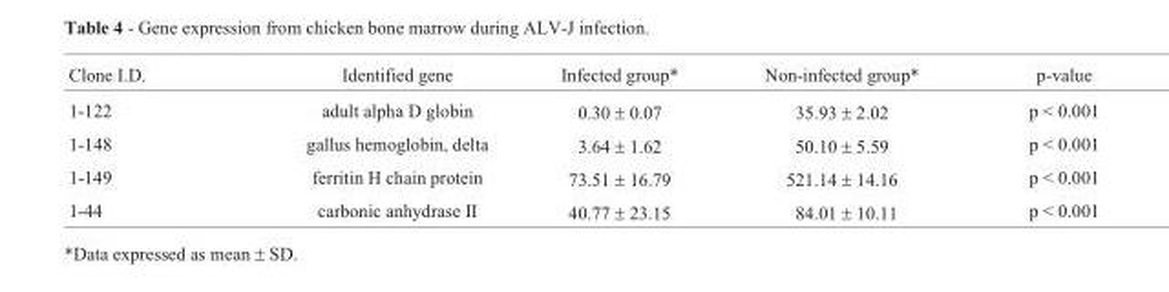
<table><thead><tr><td>Clone I.D.</td><td>Identified gene</td><td>Infected group*</td><td>Non-infected group*</td><td>p-value</td></tr></thead><tbody><tr><td>1-122</td><td>adult alpha D globin</td><td>0.30 ± 0.07</td><td>35.93 ± 2.02</td><td>p &lt; 0.001</td></tr><tr><td>1-148</td><td>gallus hemoglobin, delta</td><td>3.64 ± 1.62</td><td>50.10 ± 5.59</td><td>p &lt; 0.001</td></tr><tr><td>1-149</td><td>ferritin H chain protein</td><td>73.51 ± 16.79</td><td>521.14 ± 14.16</td><td>p &lt; 0.001</td></tr><tr><td>1-44</td><td>carbonic anhydrase II</td><td>40.77 ± 23.15</td><td>84.01 ± 10.11</td><td>p &lt; 0.001</td></tr></tbody></table>